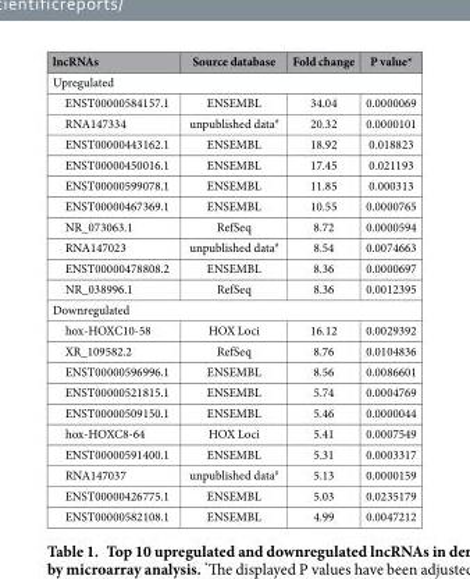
<table><thead><tr><td>lncRNAs</td><td>Source database</td><td>Fold change</td><td>P value*</td></tr></thead><tbody><tr><td colspan="4">Upregulated</td></tr><tr><td>ENST00000584157.1</td><td>ENSEMBL</td><td>34.04</td><td>0.0000069</td></tr><tr><td>RNA147334</td><td>unpublished data#</td><td>20.32</td><td>0.0000101</td></tr><tr><td>ENST00000443162.1</td><td>ENSEMBL</td><td>18.92</td><td>0.018823</td></tr><tr><td>ENST00000450016.1</td><td>ENSEMBL</td><td>17.45</td><td>0.021193</td></tr><tr><td>ENST00000599078.1</td><td>ENSEMBL</td><td>11.85</td><td>0.000313</td></tr><tr><td>ENST00000467369.1</td><td>ENSEMBL</td><td>10.55</td><td>0.0000765</td></tr><tr><td>NR_073063.1</td><td>RefSeq</td><td>8.72</td><td>0.0000594</td></tr><tr><td>RNA147023</td><td>unpublished data#</td><td>8.54</td><td>0.0074663</td></tr><tr><td>ENST00000478808.2</td><td>ENSEMBL</td><td>8.36</td><td>0.0000697</td></tr><tr><td>NR_038996.1</td><td>RefSeq</td><td>8.36</td><td>0.0012395</td></tr><tr><td colspan="4">Downregulated</td></tr><tr><td>hox-HOXC10-58</td><td>HOX Loci</td><td>16.12</td><td>0.0029392</td></tr><tr><td>XR_109582.2</td><td>RefSeq</td><td>8.76</td><td>0.0104836</td></tr><tr><td>ENST00000596996.1</td><td>ENSEMBL</td><td>8.56</td><td>0.0086601</td></tr><tr><td>ENST00000521815.1</td><td>ENSEMBL</td><td>5.74</td><td>0.0004769</td></tr><tr><td>ENST00000509150.1</td><td>ENSEMBL</td><td>5.46</td><td>0.0000044</td></tr><tr><td>hox-HOXC8-64</td><td>HOX Loci</td><td>5.41</td><td>0.0007549</td></tr><tr><td>ENST00000591400.1</td><td>ENSEMBL</td><td>5.31</td><td>0.0003317</td></tr><tr><td>RNA147037</td><td>unpublished data#</td><td>5.13</td><td>0.0000159</td></tr><tr><td>ENST00000426775.1</td><td>ENSEMBL</td><td>5.03</td><td>0.0235179</td></tr><tr><td>ENST00000582108.1</td><td>ENSEMBL</td><td>4.99</td><td>0.0047212</td></tr></tbody></table>